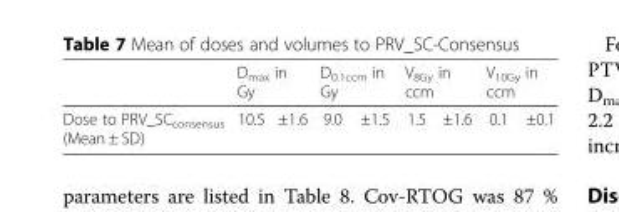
<table><thead><tr><td rowspan="2">Dose to PRV_SC<sub>consensus</sub> (Mean ± SD)</td><td colspan="2">D<sub>max</sub> in Gy</td><td colspan="2">D<sub>0.1ccm</sub> in Gy</td><td colspan="2">V<sub>8Gy</sub> in ccm</td><td colspan="2">V<sub>10Gy</sub> in ccm</td></tr><tr><td>10.5</td><td>±1.6</td><td>9.0</td><td>±1.5</td><td>1.5</td><td>±1.6</td><td>0.1</td><td>±0.1</td></tr></thead><tbody></tbody></table>